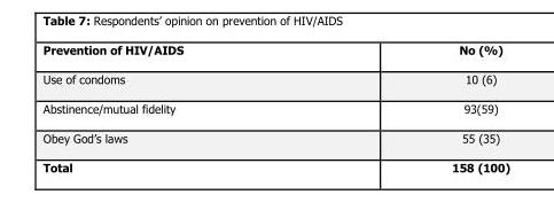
<table><thead><tr><td>Prevention of HIV/AIDS</td><td>No (%)</td></tr></thead><tbody><tr><td>Use of condoms</td><td>10 (6)</td></tr><tr><td>Abstinence/mutual fidelity</td><td>93(59)</td></tr><tr><td>Obey God’s laws</td><td>55 (35)</td></tr><tr><td>Total</td><td>158 (100)</td></tr></tbody></table>